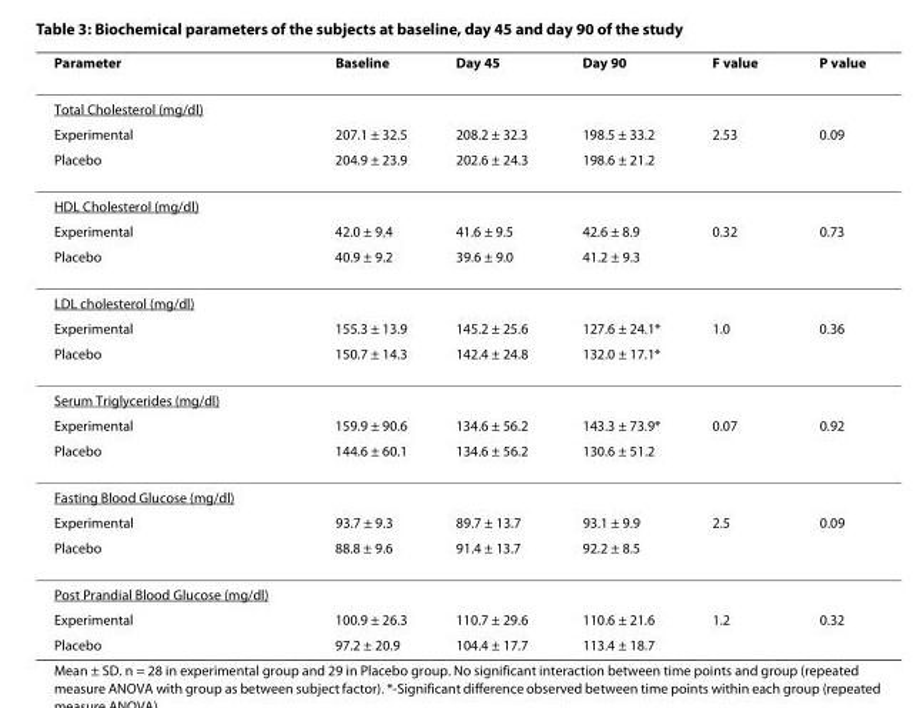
<table><thead><tr><td>Parameter</td><td>Baseline</td><td>Day 45</td><td>Day 90</td><td>F value</td><td>P value</td></tr></thead><tbody><tr><td colspan="6">Total Cholesterol (mg/dl)</td></tr><tr><td>Experimental</td><td>207.1 ± 32.5</td><td>208.2 ± 32.3</td><td>198.5 ± 33.2</td><td>2.53</td><td>0.09</td></tr><tr><td>Placebo</td><td>204.9 ± 23.9</td><td>202.6 ± 24.3</td><td>198.6 ± 21.2</td><td></td><td></td></tr><tr><td colspan="6">HDL Cholesterol (mg/dl)</td></tr><tr><td>Experimental</td><td>42.0 ± 9.4</td><td>41.6 ± 9.5</td><td>42.6 ± 8.9</td><td>0.32</td><td>0.73</td></tr><tr><td>Placebo</td><td>40.9 ± 9.2</td><td>39.6 ± 9.0</td><td>41.2 ± 9.3</td><td></td><td></td></tr><tr><td colspan="6">LDL cholesterol (mg/dl)</td></tr><tr><td>Experimental</td><td>155.3 ± 13.9</td><td>145.2 ± 25.6</td><td>127.6 ± 24.1*</td><td>1.0</td><td>0.36</td></tr><tr><td>Placebo</td><td>150.7 ± 14.3</td><td>142.4 ± 24.8</td><td>132.0 ± 17.1*</td><td></td><td></td></tr><tr><td colspan="6">Serum Triglycerides (mg/dl)</td></tr><tr><td>Experimental</td><td>159.9 ± 90.6</td><td>134.6 ± 56.2</td><td>143.3 ± 73.9*</td><td>0.07</td><td>0.92</td></tr><tr><td>Placebo</td><td>144.6 ± 60.1</td><td>134.6 ± 56.2</td><td>130.6 ± 51.2</td><td></td><td></td></tr><tr><td colspan="6">Fasting Blood Glucose (mg/dl)</td></tr><tr><td>Experimental</td><td>93.7 ± 9.3</td><td>89.7 ± 13.7</td><td>93.1 ± 9.9</td><td>2.5</td><td>0.09</td></tr><tr><td>Placebo</td><td>88.8 ± 9.6</td><td>91.4 ± 13.7</td><td>92.2 ± 8.5</td><td></td><td></td></tr><tr><td colspan="6">Post Prandial Blood Glucose (mg/dl)</td></tr><tr><td>Experimental</td><td>100.9 ± 26.3</td><td>110.7 ± 29.6</td><td>110.6 ± 21.6</td><td>1.2</td><td>0.32</td></tr><tr><td>Placebo</td><td>97.2 ± 20.9</td><td>104.4 ± 17.7</td><td>113.4 ± 18.7</td><td></td><td></td></tr></tbody></table>